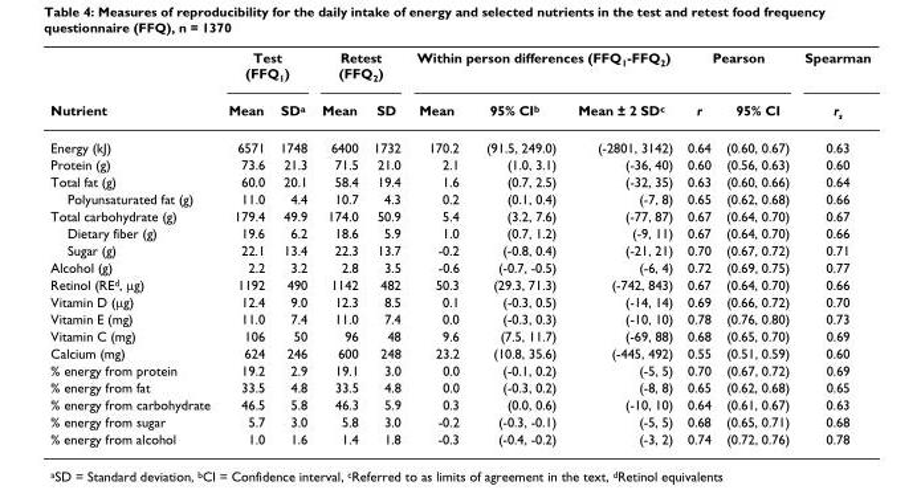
<table><thead><tr><td rowspan="2">Nutrient</td><td colspan="2">Test (FFQ<sub>1</sub>)</td><td colspan="2">Retest (FFQ<sub>2</sub>)</td><td colspan="3">Within person differences (FFQ<sub>1</sub>-FFQ<sub>2</sub>)</td><td colspan="2">Pearson</td><td rowspan="2">Spearman r<sub>s</sub></td></tr><tr><td>Mean</td><td>SD<sup>a</sup></td><td>Mean</td><td>SD</td><td>Mean</td><td>95% CI<sup>b</sup></td><td>Mean ± 2 SD<sup>c</sup></td><td>r</td><td>95% CI</td></tr></thead><tbody><tr><td>Energy (kJ)</td><td>6571</td><td>1748</td><td>6400</td><td>1732</td><td>170.2</td><td>(91.5, 249.0)</td><td>(-2801, 3142)</td><td>0.64</td><td>(0.60, 0.67)</td><td>0.63</td></tr><tr><td>Protein (g)</td><td>73.6</td><td>21.3</td><td>71.5</td><td>21.0</td><td>2.1</td><td>(1.0, 3.1)</td><td>(-36, 40)</td><td>0.60</td><td>(0.56, 0.63)</td><td>0.60</td></tr><tr><td>Total fat (g)</td><td>60.0</td><td>20.1</td><td>58.4</td><td>19.4</td><td>1.6</td><td>(0.7, 2.5)</td><td>(-32, 35)</td><td>0.63</td><td>(0.60, 0.66)</td><td>0.64</td></tr><tr><td>Polyunsaturated fat (g)</td><td>11.0</td><td>4.4</td><td>10.7</td><td>4.3</td><td>0.2</td><td>(0.1, 0.4)</td><td>(-7, 8)</td><td>0.65</td><td>(0.62, 0.68)</td><td>0.66</td></tr><tr><td>Total carbohydrate (g)</td><td>179.4</td><td>49.9</td><td>174.0</td><td>50.9</td><td>5.4</td><td>(3.2, 7.6)</td><td>(-77, 87)</td><td>0.67</td><td>(0.64, 0.70)</td><td>0.67</td></tr><tr><td>Dietary fiber (g)</td><td>19.6</td><td>6.2</td><td>18.6</td><td>5.9</td><td>1.0</td><td>(0.7, 1.2)</td><td>(-9, 11)</td><td>0.67</td><td>(0.64, 0.70)</td><td>0.66</td></tr><tr><td>Sugar (g)</td><td>22.1</td><td>13.4</td><td>22.3</td><td>13.7</td><td>-0.2</td><td>(-0.8, 0.4)</td><td>(-21, 21)</td><td>0.70</td><td>(0.67, 0.72)</td><td>0.71</td></tr><tr><td>Alcohol (g)</td><td>2.2</td><td>3.2</td><td>2.8</td><td>3.5</td><td>-0.6</td><td>(-0.7, -0.5)</td><td>(-6, 4)</td><td>0.72</td><td>(0.69, 0.75)</td><td>0.77</td></tr><tr><td>Retinol (RE<sup>d</sup>, µg)</td><td>1192</td><td>490</td><td>1142</td><td>482</td><td>50.3</td><td>(29.3, 71.3)</td><td>(-742, 843)</td><td>0.67</td><td>(0.64, 0.70)</td><td>0.66</td></tr><tr><td>Vitamin D (µg)</td><td>12.4</td><td>9.0</td><td>12.3</td><td>8.5</td><td>0.1</td><td>(-0.3, 0.5)</td><td>(-14, 14)</td><td>0.69</td><td>(0.66, 0.72)</td><td>0.70</td></tr><tr><td>Vitamin E (mg)</td><td>11.0</td><td>7.4</td><td>11.0</td><td>7.4</td><td>0.0</td><td>(-0.3, 0.3)</td><td>(-10, 10)</td><td>0.78</td><td>(0.76, 0.80)</td><td>0.73</td></tr><tr><td>Vitamin C (mg)</td><td>106</td><td>50</td><td>96</td><td>48</td><td>9.6</td><td>(7.5, 11.7)</td><td>(-69, 88)</td><td>0.68</td><td>(0.65, 0.70)</td><td>0.69</td></tr><tr><td>Calcium (mg)</td><td>624</td><td>246</td><td>600</td><td>248</td><td>23.2</td><td>(10.8, 35.6)</td><td>(-445, 492)</td><td>0.55</td><td>(0.51, 0.59)</td><td>0.60</td></tr><tr><td>% energy from protein</td><td>19.2</td><td>2.9</td><td>19.1</td><td>3.0</td><td>0.0</td><td>(-0.1, 0.2)</td><td>(-5, 5)</td><td>0.70</td><td>(0.67, 0.72)</td><td>0.69</td></tr><tr><td>% energy from fat</td><td>33.5</td><td>4.8</td><td>33.5</td><td>4.8</td><td>0.0</td><td>(-0.3, 0.2)</td><td>(-8, 8)</td><td>0.65</td><td>(0.62, 0.68)</td><td>0.65</td></tr><tr><td>% energy from carbohydrate</td><td>46.5</td><td>5.8</td><td>46.3</td><td>5.9</td><td>0.3</td><td>(0.0, 0.6)</td><td>(-10, 10)</td><td>0.64</td><td>(0.61, 0.67)</td><td>0.63</td></tr><tr><td>% energy from sugar</td><td>5.7</td><td>3.0</td><td>5.8</td><td>3.0</td><td>-0.2</td><td>(-0.3, -0.1)</td><td>(-5, 5)</td><td>0.68</td><td>(0.65, 0.71)</td><td>0.68</td></tr><tr><td>% energy from alcohol</td><td>1.0</td><td>1.6</td><td>1.4</td><td>1.8</td><td>-0.3</td><td>(-0.4, -0.2)</td><td>(-3, 2)</td><td>0.74</td><td>(0.72, 0.76)</td><td>0.78</td></tr></tbody></table>